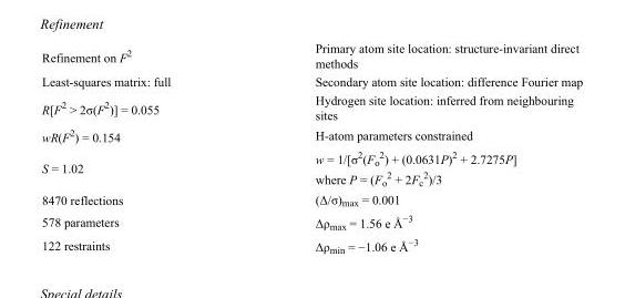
<table><tbody><tr><td>Refinement on F<sup>2</sup></td><td>Primary atom site location: structure-invariant direct methods</td></tr><tr><td>Least-squares matrix: full</td><td>Secondary atom site location: difference Fourier map</td></tr><tr><td>R[F<sup>2</sup> &gt; 2σ(F<sup>2</sup>)] = 0.055</td><td>Hydrogen site location: inferred from neighbouring sites</td></tr><tr><td>wR(F<sup>2</sup>) = 0.154</td><td>H-atom parameters constrained</td></tr><tr><td>S = 1.02</td><td>w = 1/[σ<sup>2</sup>(F<sub>o</sub> <sup>2</sup>) + (0.0631P)<sup>2</sup> + 2.7275P] where P = (F<sub>o</sub> <sup>2</sup> + 2F<sub>c</sub> <sup>2</sup>)/3</td></tr><tr><td>8470 reflections</td><td>(Δ/σ)<sub>max</sub> = 0.001</td></tr><tr><td>578 parameters</td><td>Δρ<sub>max</sub> = 1.56 e Å<sup>−3</sup></td></tr><tr><td>122 restraints</td><td>Δρ<sub>min</sub> = −1.06 e Å<sup>−3</sup></td></tr></tbody></table>